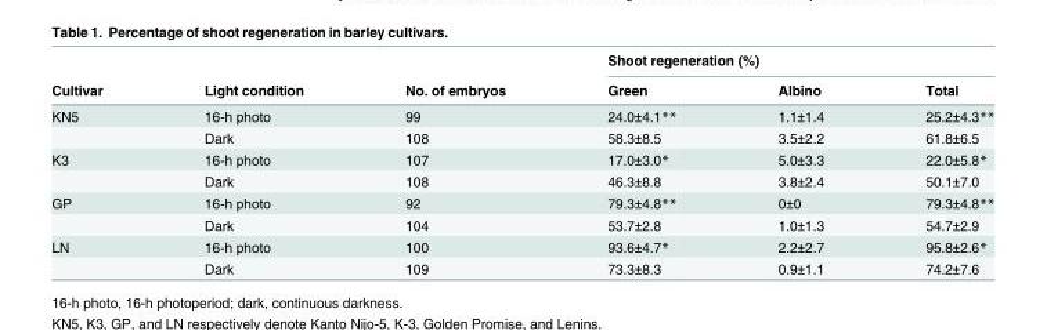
<table><thead><tr><td rowspan="2">Cultivar</td><td rowspan="2">Light condition</td><td rowspan="2">No. of embryos</td><td colspan="3">Shoot regeneration (%)</td></tr><tr><td>Green</td><td>Albino</td><td>Total</td></tr></thead><tbody><tr><td rowspan="2">KN5</td><td>16-h photo</td><td>99</td><td>24.0±4.1**</td><td>1.1±1.4</td><td>25.2±4.3**</td></tr><tr><td>Dark</td><td>108</td><td>58.3±8.5</td><td>3.5±2.2</td><td>61.8±6.5</td></tr><tr><td rowspan="2">K3</td><td>16-h photo</td><td>107</td><td>17.0±3.0*</td><td>5.0±3.3</td><td>22.0±5.8*</td></tr><tr><td>Dark</td><td>108</td><td>46.3±8.8</td><td>3.8±2.4</td><td>50.1±7.0</td></tr><tr><td rowspan="2">GP</td><td>16-h photo</td><td>92</td><td>79.3±4.8**</td><td>0±0</td><td>79.3±4.8**</td></tr><tr><td>Dark</td><td>104</td><td>53.7±2.8</td><td>1.0±1.3</td><td>54.7±2.9</td></tr><tr><td rowspan="2">LN</td><td>16-h photo</td><td>100</td><td>93.6±4.7*</td><td>2.2±2.7</td><td>95.8±2.6*</td></tr><tr><td>Dark</td><td>109</td><td>73.3±8.3</td><td>0.9±1.1</td><td>74.2±7.6</td></tr></tbody></table>